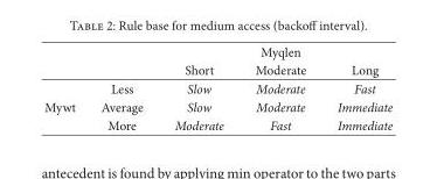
<table><thead><tr><td rowspan="2"></td><td rowspan="2"></td><td rowspan="2">Short</td><td rowspan="2">Myqlen Moderate</td><td rowspan="2">Long</td></tr><tr></tr></thead><tbody><tr><td></td><td>Less</td><td>Slow</td><td>Moderate</td><td>Fast</td></tr><tr><td rowspan="2">Mywt</td><td>Average</td><td>Slow</td><td>Moderate</td><td>Immediate</td></tr><tr><td>More</td><td>Moderate</td><td>Fast</td><td>Immediate</td></tr></tbody></table>